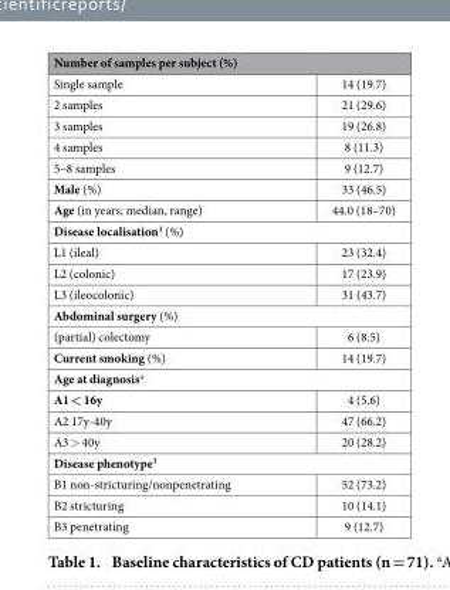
<table><thead><tr><td colspan="2">Number of samples per subject (%)</td></tr><tr><td>Single sample</td><td>14 (19.7)</td></tr></thead><tbody><tr><td>2 samples</td><td>21 (29.6)</td></tr><tr><td>3 samples</td><td>19 (26.8)</td></tr><tr><td>4 samples</td><td>8 (11.3)</td></tr><tr><td>5–8 samples</td><td>9 (12.7)</td></tr><tr><td>Male (%)</td><td>33 (46.5)</td></tr><tr><td>Age (in years; median, range)</td><td>44.0 (18–70)</td></tr><tr><td colspan="2">Disease localisation<sup>1</sup> (%)</td></tr><tr><td>L1 (ileal)</td><td>23 (32.4)</td></tr><tr><td>L2 (colonic)</td><td>17 (23.9)</td></tr><tr><td>L3 (ileocolonic)</td><td>31 (43.7)</td></tr><tr><td colspan="2">Abdominal surgery (%)</td></tr><tr><td>(partial) colectomy</td><td>6 (8.5)</td></tr><tr><td>Current smoking (%)</td><td>14 (19.7)</td></tr><tr><td colspan="2">Age at diagnosis<sup>a</sup></td></tr><tr><td>A1 &lt; 16y</td><td>4 (5.6)</td></tr><tr><td>A2 17y-40y</td><td>47 (66.2)</td></tr><tr><td>A3 &gt; 40y</td><td>20 (28.2)</td></tr><tr><td colspan="2">Disease phenotype<sup>1</sup></td></tr><tr><td>B1 non-stricturing/nonpenetrating</td><td>52 (73.2)</td></tr><tr><td>B2 stricturing</td><td>10 (14.1)</td></tr><tr><td>B3 penetrating</td><td>9 (12.7)</td></tr></tbody></table>